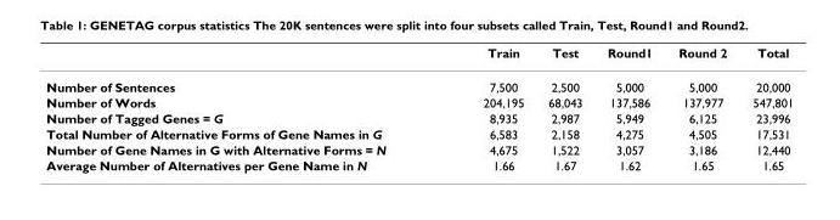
<table><thead><tr><td></td><td>Train</td><td>Test</td><td>Round1</td><td>Round 2</td><td>Total</td></tr></thead><tbody><tr><td>Number of Sentences</td><td>7,500</td><td>2,500</td><td>5,000</td><td>5,000</td><td>20,000</td></tr><tr><td>Number of Words</td><td>204,195</td><td>68,043</td><td>137,586</td><td>137,977</td><td>547,801</td></tr><tr><td>Number of Tagged Genes = G</td><td>8,935</td><td>2,987</td><td>5,949</td><td>6,125</td><td>23,996</td></tr><tr><td>Total Number of Alternative Forms of Gene Names in G</td><td>6,583</td><td>2,158</td><td>4,275</td><td>4,505</td><td>17,531</td></tr><tr><td>Number of Gene Names in G with Alternative Forms = N</td><td>4,675</td><td>1,522</td><td>3,057</td><td>3,186</td><td>12,440</td></tr><tr><td>Average Number of Alternatives per Gene Name in N</td><td>1.66</td><td>1.67</td><td>1.62</td><td>1.65</td><td>1.65</td></tr></tbody></table>